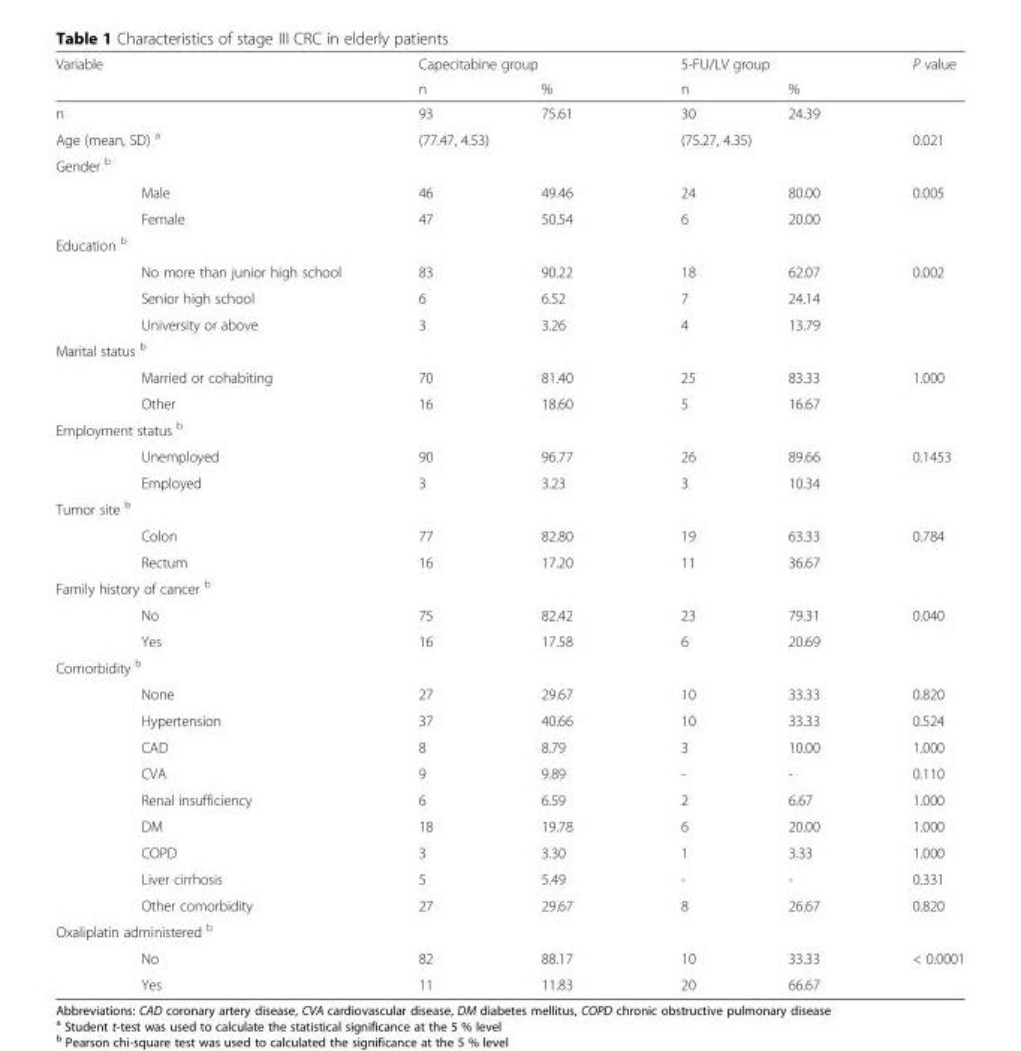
<table><thead><tr><td rowspan="2" colspan="2">Variable</td><td colspan="2">Capecitabine group</td><td colspan="2">5-FU/LV group</td><td rowspan="3">P value</td></tr><tr><td rowspan="2">n 93</td><td rowspan="2">% 75.61</td><td rowspan="2">n 30</td><td rowspan="2">% 24.39</td></tr><tr><td>n</td><td></td></tr></thead><tbody><tr><td colspan="2">Age (mean, SD) <sup>a</sup></td><td colspan="2">(77.47, 4.53)</td><td colspan="2">(75.27, 4.35)</td><td>0.021</td></tr><tr><td colspan="7">Gender <sup>b</sup></td></tr><tr><td></td><td>Male</td><td>46</td><td>49.46</td><td>24</td><td>80.00</td><td>0.005</td></tr><tr><td></td><td>Female</td><td>47</td><td>50.54</td><td>6</td><td>20.00</td><td></td></tr><tr><td colspan="7">Education <sup>b</sup></td></tr><tr><td></td><td>No more than junior high school</td><td>83</td><td>90.22</td><td>18</td><td>62.07</td><td>0.002</td></tr><tr><td></td><td>Senior high school</td><td>6</td><td>6.52</td><td>7</td><td>24.14</td><td></td></tr><tr><td></td><td>University or above</td><td>3</td><td>3.26</td><td>4</td><td>13.79</td><td></td></tr><tr><td colspan="7">Marital status <sup>b</sup></td></tr><tr><td></td><td>Married or cohabiting</td><td>70</td><td>81.40</td><td>25</td><td>83.33</td><td>1.000</td></tr><tr><td></td><td>Other</td><td>16</td><td>18.60</td><td>5</td><td>16.67</td><td></td></tr><tr><td colspan="7">Employment status <sup>b</sup></td></tr><tr><td></td><td>Unemployed</td><td>90</td><td>96.77</td><td>26</td><td>89.66</td><td>0.1453</td></tr><tr><td></td><td>Employed</td><td>3</td><td>3.23</td><td>3</td><td>10.34</td><td></td></tr><tr><td colspan="7">Tumor site <sup>b</sup></td></tr><tr><td></td><td>Colon</td><td>77</td><td>82.80</td><td>19</td><td>63.33</td><td>0.784</td></tr><tr><td></td><td>Rectum</td><td>16</td><td>17.20</td><td>11</td><td>36.67</td><td></td></tr><tr><td colspan="7">Family history of cancer <sup>b</sup></td></tr><tr><td></td><td>No</td><td>75</td><td>82.42</td><td>23</td><td>79.31</td><td>0.040</td></tr><tr><td></td><td>Yes</td><td>16</td><td>17.58</td><td>6</td><td>20.69</td><td></td></tr><tr><td colspan="7">Comorbidity <sup>b</sup></td></tr><tr><td></td><td>None</td><td>27</td><td>29.67</td><td>10</td><td>33.33</td><td>0.820</td></tr><tr><td></td><td>Hypertension</td><td>37</td><td>40.66</td><td>10</td><td>33.33</td><td>0.524</td></tr><tr><td></td><td>CAD</td><td>8</td><td>8.79</td><td>3</td><td>10.00</td><td>1.000</td></tr><tr><td></td><td>CVA</td><td>9</td><td>9.89</td><td>-</td><td>-</td><td>0.110</td></tr><tr><td></td><td>Renal insufficiency</td><td>6</td><td>6.59</td><td>2</td><td>6.67</td><td>1.000</td></tr><tr><td></td><td>DM</td><td>18</td><td>19.78</td><td>6</td><td>20.00</td><td>1.000</td></tr><tr><td></td><td>COPD</td><td>3</td><td>3.30</td><td>1</td><td>3.33</td><td>1.000</td></tr><tr><td></td><td>Liver cirrhosis</td><td>5</td><td>5.49</td><td>-</td><td>-</td><td>0.331</td></tr><tr><td></td><td>Other comorbidity</td><td>27</td><td>29.67</td><td>8</td><td>26.67</td><td>0.820</td></tr><tr><td colspan="7">Oxaliplatin administered <sup>b</sup></td></tr><tr><td></td><td>No</td><td>82</td><td>88.17</td><td>10</td><td>33.33</td><td>&lt; 0.0001</td></tr><tr><td></td><td>Yes</td><td>11</td><td>11.83</td><td>20</td><td>66.67</td><td></td></tr></tbody></table>